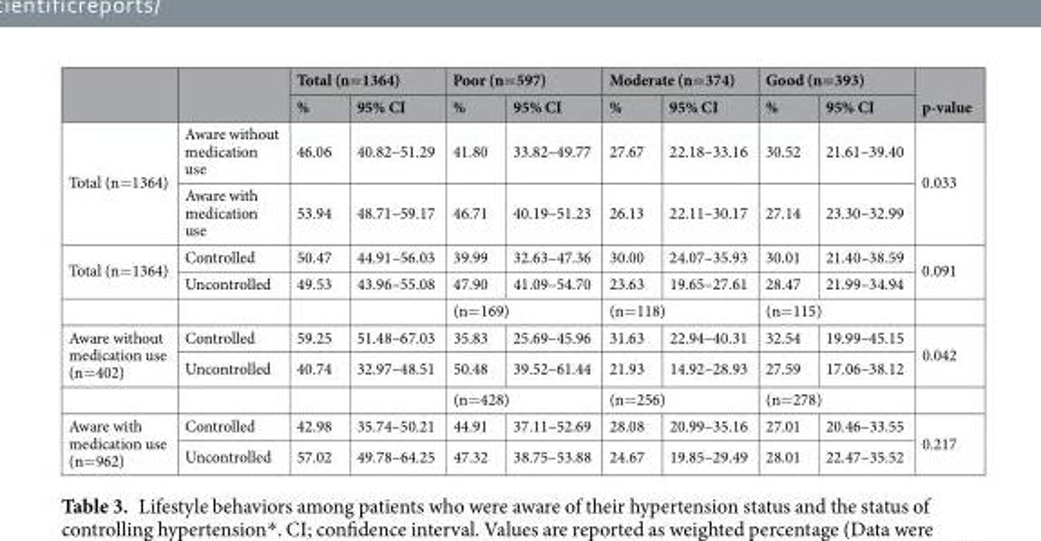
<table><thead><tr><td rowspan="2"></td><td rowspan="2"></td><td colspan="2">Total (n=1364)</td><td colspan="2">Poor (n=597)</td><td colspan="2">Moderate (n=374)</td><td colspan="2">Good (n=393)</td><td rowspan="2">p-value</td></tr><tr><td>%</td><td>95% CI</td><td>%</td><td>95% CI</td><td>%</td><td>95% CI</td><td>%</td><td>95% CI</td></tr></thead><tbody><tr><td rowspan="2">Total (n=1364)</td><td>Aware without medication use</td><td>46.06</td><td>40.82–51.29</td><td>41.80</td><td>33.82–49.77</td><td>27.67</td><td>22.18–33.16</td><td>30.52</td><td>21.61–39.40</td><td rowspan="2">0.033</td></tr><tr><td>Aware with medication use</td><td>53.94</td><td>48.71–59.17</td><td>46.71</td><td>40.19–51.23</td><td>26.13</td><td>22.11–30.17</td><td>27.14</td><td>23.30–32.99</td></tr><tr><td rowspan="3">Total (n=1364)</td><td>Controlled</td><td>50.47</td><td>44.91–56.03</td><td>39.99</td><td>32.63–47.36</td><td>30.00</td><td>24.07–35.93</td><td>30.01</td><td>21.40–38.59</td><td rowspan="2">0.091</td></tr><tr><td>Uncontrolled</td><td>49.53</td><td>43.96–55.08</td><td>47.90</td><td>41.09–54.70</td><td>23.63</td><td>19.65–27.61</td><td>28.47</td><td>21.99–34.94</td></tr><tr><td></td><td></td><td></td><td colspan="2">(n=169)</td><td colspan="2">(n=118)</td><td colspan="2">(n=115)</td><td></td></tr><tr><td rowspan="3">Aware without medication use (n=402)</td><td>Controlled</td><td>59.25</td><td>51.48–67.03</td><td>35.83</td><td>25.69–45.96</td><td>31.63</td><td>22.94–40.31</td><td>32.54</td><td>19.99–45.15</td><td rowspan="2">0.042</td></tr><tr><td>Uncontrolled</td><td>40.74</td><td>32.97–48.51</td><td>50.48</td><td>39.52–61.44</td><td>21.93</td><td>14.92–28.93</td><td>27.59</td><td>17.06–38.12</td></tr><tr><td></td><td></td><td></td><td colspan="2">(n=428)</td><td colspan="2">(n=256)</td><td colspan="2">(n=278)</td><td></td></tr><tr><td rowspan="2">Aware with medication use (n=962)</td><td>Controlled</td><td>42.98</td><td>35.74–50.21</td><td>44.91</td><td>37.11–52.69</td><td>28.08</td><td>20.99–35.16</td><td>27.01</td><td>20.46–33.55</td><td rowspan="2">0.217</td></tr><tr><td>Uncontrolled</td><td>57.02</td><td>49.78–64.25</td><td>47.32</td><td>38.75–53.88</td><td>24.67</td><td>19.85–29.49</td><td>28.01</td><td>22.47–35.52</td></tr></tbody></table>